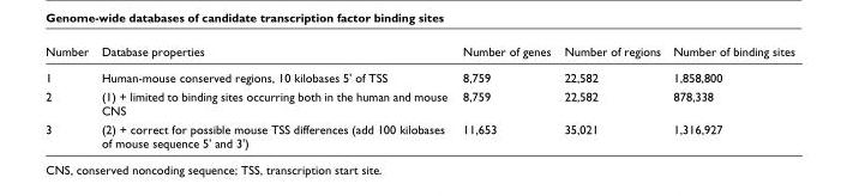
<table><thead><tr><td>Number</td><td>Database properties</td><td>Number of genes</td><td>Number of regions</td><td>Number of binding sites</td></tr></thead><tbody><tr><td>1</td><td>Human-mouse conserved regions, 10 kilobases 5&#x27; of TSS</td><td>8,759</td><td>22,582</td><td>1,858,800</td></tr><tr><td>2</td><td>(1) + limited to binding sites occurring both in the human and mouse CNS</td><td>8,759</td><td>22,582</td><td>878,338</td></tr><tr><td>3</td><td>(2) + correct for possible mouse TSS differences (add 100 kilobases of mouse sequence 5&#x27; and 3&#x27;)</td><td>11,653</td><td>35,021</td><td>1,316,927</td></tr></tbody></table>